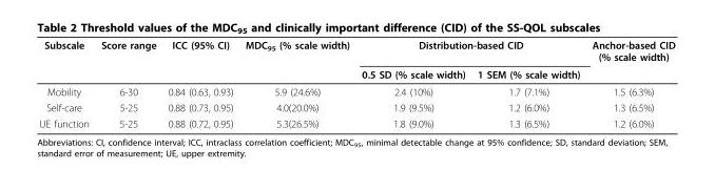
<table><thead><tr><td rowspan="2">Subscale</td><td rowspan="2">Score range</td><td rowspan="2">ICC (95% CI)</td><td rowspan="2">MDC<sub>95</sub> (% scale width)</td><td colspan="2">Distribution-based CID</td><td rowspan="2">Anchor-based CID (% scale width)</td></tr><tr><td>0.5 SD (% scale width)</td><td>1 SEM (% scale width)</td></tr></thead><tbody><tr><td>Mobility</td><td>6-30</td><td>0.84 (0.63, 0.93)</td><td>5.9 (24.6%)</td><td>2.4 (10%)</td><td>1.7 (7.1%)</td><td>1.5 (6.3%)</td></tr><tr><td>Self-care</td><td>5-25</td><td>0.88 (0.73, 0.95)</td><td>4.0(20.0%)</td><td>1.9 (9.5%)</td><td>1.2 (6.0%)</td><td>1.3 (6.5%)</td></tr><tr><td>UE function</td><td>5-25</td><td>0.88 (0.72, 0.95)</td><td>5.3(26.5%)</td><td>1.8 (9.0%)</td><td>1.3 (6.5%)</td><td>1.2 (6.0%)</td></tr></tbody></table>